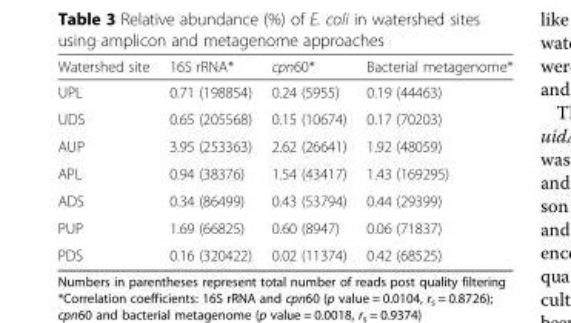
<table><thead><tr><td>Watershed site</td><td>16S rRNA*</td><td>cpn60*</td><td>Bacterial metagenome*</td></tr></thead><tbody><tr><td>UPL</td><td>0.71 (198854)</td><td>0.24 (5955)</td><td>0.19 (44463)</td></tr><tr><td>UDS</td><td>0.65 (205568)</td><td>0.15 (10674)</td><td>0.17 (70203)</td></tr><tr><td>AUP</td><td>3.95 (253363)</td><td>2.62 (26641)</td><td>1.92 (48059)</td></tr><tr><td>APL</td><td>0.94 (38376)</td><td>1.54 (43417)</td><td>1.43 (169295)</td></tr><tr><td>ADS</td><td>0.34 (86499)</td><td>0.43 (53794)</td><td>0.44 (29399)</td></tr><tr><td>PUP</td><td>1.69 (66825)</td><td>0.60 (8947)</td><td>0.06 (71837)</td></tr><tr><td>PDS</td><td>0.16 (320422)</td><td>0.02 (11374)</td><td>0.42 (68525)</td></tr></tbody></table>